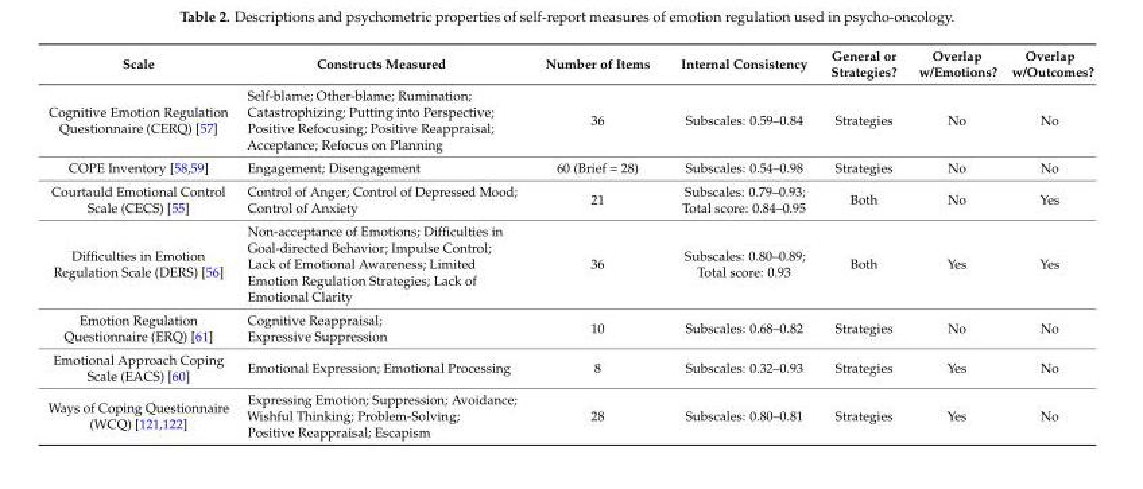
<table><thead><tr><td>Scale</td><td>Constructs Measured</td><td>Number of Items</td><td>Internal Consistency</td><td>General or Strategies?</td><td>Overlap w/Emotions?</td><td>Overlap w/Outcomes?</td></tr></thead><tbody><tr><td>Cognitive Emotion Regulation Questionnaire (CERQ) [57]</td><td>Self-blame; Other-blame; Rumination; Catastrophizing; Putting into Perspective; Positive Refocusing; Positive Reappraisal; Acceptance; Refocus on Planning</td><td>36</td><td>Subscales: 0.59–0.84</td><td>Strategies</td><td>No</td><td>No</td></tr><tr><td>COPE Inventory [58,59]</td><td>Engagement; Disengagement</td><td>60 (Brief = 28)</td><td>Subscales: 0.54–0.98</td><td>Strategies</td><td>No</td><td>No</td></tr><tr><td>Courtauld Emotional Control Scale (CECS) [55]</td><td>Control of Anger; Control of Depressed Mood; Control of Anxiety</td><td>21</td><td>Subscales: 0.79–0.93; Total score: 0.84–0.95</td><td>Both</td><td>No</td><td>Yes</td></tr><tr><td>Difficulties in Emotion Regulation Scale (DERS) [56]</td><td>Non-acceptance of Emotions; Difficulties in Goal-directed Behavior; Impulse Control; Lack of Emotional Awareness; Limited Emotion Regulation Strategies; Lack of Emotional Clarity</td><td>36</td><td>Subscales: 0.80–0.89; Total score: 0.93</td><td>Both</td><td>Yes</td><td>Yes</td></tr><tr><td>Emotion Regulation Questionnaire (ERQ) [61]</td><td>Cognitive Reappraisal; Expressive Suppression</td><td>10</td><td>Subscales: 0.68–0.82</td><td>Strategies</td><td>No</td><td>No</td></tr><tr><td>Emotional Approach Coping Scale (EACS) [60]</td><td>Emotional Expression; Emotional Processing</td><td>8</td><td>Subscales: 0.32–0.93</td><td>Strategies</td><td>Yes</td><td>No</td></tr><tr><td>Ways of Coping Questionnaire (WCQ) [121,122]</td><td>Expressing Emotion; Suppression; Avoidance; Wishful Thinking; Problem-Solving; Positive Reappraisal; Escapism</td><td>28</td><td>Subscales: 0.80–0.81</td><td>Strategies</td><td>Yes</td><td>No</td></tr></tbody></table>